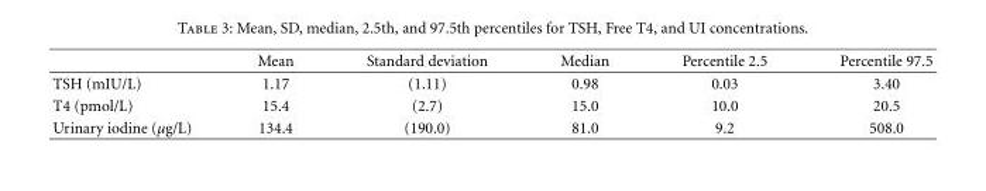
<table><thead><tr><td></td><td>Mean</td><td>Standard deviation</td><td>Median</td><td>Percentile 2.5</td><td>Percentile 97.5</td></tr></thead><tbody><tr><td>TSH (mIU/L)</td><td>1.17</td><td>(1.11)</td><td>0.98</td><td>0.03</td><td>3.40</td></tr><tr><td>T4 (pmol/L)</td><td>15.4</td><td>(2.7)</td><td>15.0</td><td>10.0</td><td>20.5</td></tr><tr><td>Urinary iodine (µg/L)</td><td>134.4</td><td>(190.0)</td><td>81.0</td><td>9.2</td><td>508.0</td></tr></tbody></table>